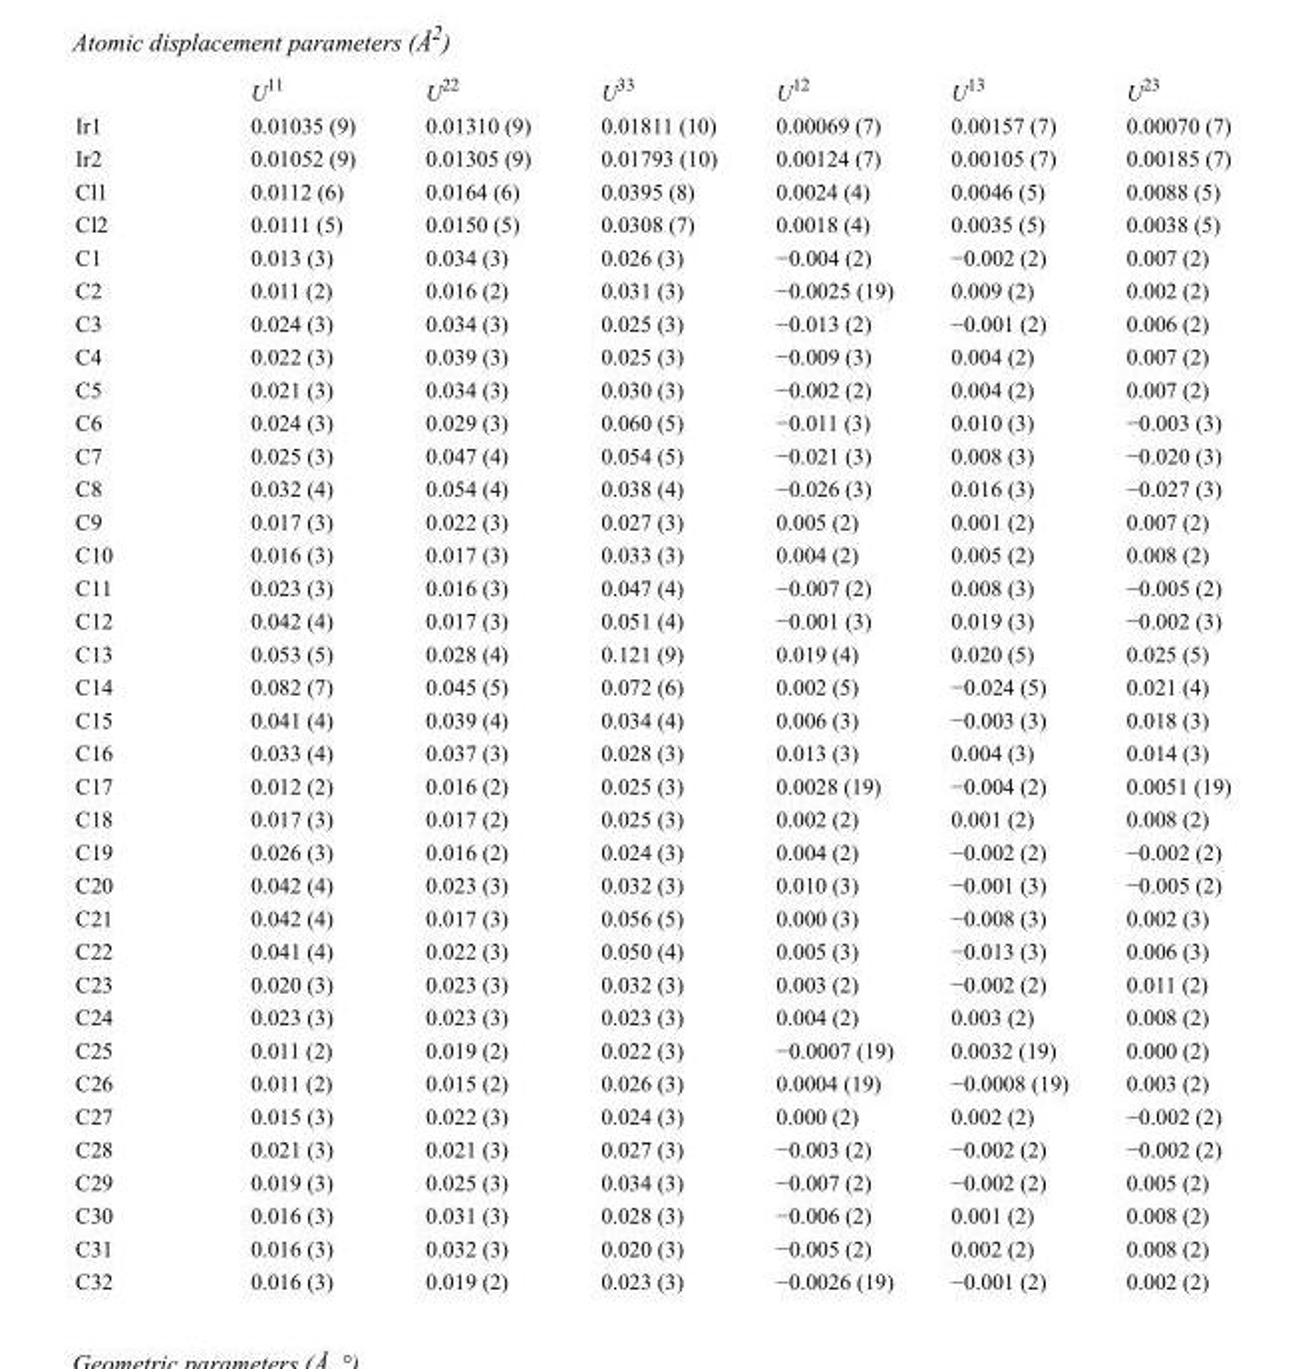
<table><thead><tr><td></td><td>U<sup>11</sup></td><td>U<sup>22</sup></td><td>U<sup>33</sup></td><td>U<sup>12</sup></td><td>U<sup>13</sup></td><td>U<sup>23</sup></td></tr></thead><tbody><tr><td>Ir1</td><td>0.01035 (9)</td><td>0.01310 (9)</td><td>0.01811 (10)</td><td>0.00069 (7)</td><td>0.00157 (7)</td><td>0.00070 (7)</td></tr><tr><td>Ir2</td><td>0.01052 (9)</td><td>0.01305 (9)</td><td>0.01793 (10)</td><td>0.00124 (7)</td><td>0.00105 (7)</td><td>0.00185 (7)</td></tr><tr><td>Cl1</td><td>0.0112 (6)</td><td>0.0164 (6)</td><td>0.0395 (8)</td><td>0.0024 (4)</td><td>0.0046 (5)</td><td>0.0088 (5)</td></tr><tr><td>Cl2</td><td>0.0111 (5)</td><td>0.0150 (5)</td><td>0.0308 (7)</td><td>0.0018 (4)</td><td>0.0035 (5)</td><td>0.0038 (5)</td></tr><tr><td>C1</td><td>0.013 (3)</td><td>0.034 (3)</td><td>0.026 (3)</td><td>−0.004 (2)</td><td>−0.002 (2)</td><td>0.007 (2)</td></tr><tr><td>C2</td><td>0.011 (2)</td><td>0.016 (2)</td><td>0.031 (3)</td><td>−0.0025 (19)</td><td>0.009 (2)</td><td>0.002 (2)</td></tr><tr><td>C3</td><td>0.024 (3)</td><td>0.034 (3)</td><td>0.025 (3)</td><td>−0.013 (2)</td><td>−0.001 (2)</td><td>0.006 (2)</td></tr><tr><td>C4</td><td>0.022 (3)</td><td>0.039 (3)</td><td>0.025 (3)</td><td>−0.009 (3)</td><td>0.004 (2)</td><td>0.007 (2)</td></tr><tr><td>C5</td><td>0.021 (3)</td><td>0.034 (3)</td><td>0.030 (3)</td><td>−0.002 (2)</td><td>0.004 (2)</td><td>0.007 (2)</td></tr><tr><td>C6</td><td>0.024 (3)</td><td>0.029 (3)</td><td>0.060 (5)</td><td>−0.011 (3)</td><td>0.010 (3)</td><td>−0.003 (3)</td></tr><tr><td>C7</td><td>0.025 (3)</td><td>0.047 (4)</td><td>0.054 (5)</td><td>−0.021 (3)</td><td>0.008 (3)</td><td>−0.020 (3)</td></tr><tr><td>C8</td><td>0.032 (4)</td><td>0.054 (4)</td><td>0.038 (4)</td><td>−0.026 (3)</td><td>0.016 (3)</td><td>−0.027 (3)</td></tr><tr><td>C9</td><td>0.017 (3)</td><td>0.022 (3)</td><td>0.027 (3)</td><td>0.005 (2)</td><td>0.001 (2)</td><td>0.007 (2)</td></tr><tr><td>C10</td><td>0.016 (3)</td><td>0.017 (3)</td><td>0.033 (3)</td><td>0.004 (2)</td><td>0.005 (2)</td><td>0.008 (2)</td></tr><tr><td>C11</td><td>0.023 (3)</td><td>0.016 (3)</td><td>0.047 (4)</td><td>−0.007 (2)</td><td>0.008 (3)</td><td>−0.005 (2)</td></tr><tr><td>C12</td><td>0.042 (4)</td><td>0.017 (3)</td><td>0.051 (4)</td><td>−0.001 (3)</td><td>0.019 (3)</td><td>−0.002 (3)</td></tr><tr><td>C13</td><td>0.053 (5)</td><td>0.028 (4)</td><td>0.121 (9)</td><td>0.019 (4)</td><td>0.020 (5)</td><td>0.025 (5)</td></tr><tr><td>C14</td><td>0.082 (7)</td><td>0.045 (5)</td><td>0.072 (6)</td><td>0.002 (5)</td><td>−0.024 (5)</td><td>0.021 (4)</td></tr><tr><td>C15</td><td>0.041 (4)</td><td>0.039 (4)</td><td>0.034 (4)</td><td>0.006 (3)</td><td>−0.003 (3)</td><td>0.018 (3)</td></tr><tr><td>C16</td><td>0.033 (4)</td><td>0.037 (3)</td><td>0.028 (3)</td><td>0.013 (3)</td><td>0.004 (3)</td><td>0.014 (3)</td></tr><tr><td>C17</td><td>0.012 (2)</td><td>0.016 (2)</td><td>0.025 (3)</td><td>0.0028 (19)</td><td>−0.004 (2)</td><td>0.0051 (19)</td></tr><tr><td>C18</td><td>0.017 (3)</td><td>0.017 (2)</td><td>0.025 (3)</td><td>0.002 (2)</td><td>0.001 (2)</td><td>0.008 (2)</td></tr><tr><td>C19</td><td>0.026 (3)</td><td>0.016 (2)</td><td>0.024 (3)</td><td>0.004 (2)</td><td>−0.002 (2)</td><td>−0.002 (2)</td></tr><tr><td>C20</td><td>0.042 (4)</td><td>0.023 (3)</td><td>0.032 (3)</td><td>0.010 (3)</td><td>−0.001 (3)</td><td>−0.005 (2)</td></tr><tr><td>C21</td><td>0.042 (4)</td><td>0.017 (3)</td><td>0.056 (5)</td><td>0.000 (3)</td><td>−0.008 (3)</td><td>0.002 (3)</td></tr><tr><td>C22</td><td>0.041 (4)</td><td>0.022 (3)</td><td>0.050 (4)</td><td>0.005 (3)</td><td>−0.013 (3)</td><td>0.006 (3)</td></tr><tr><td>C23</td><td>0.020 (3)</td><td>0.023 (3)</td><td>0.032 (3)</td><td>0.003 (2)</td><td>−0.002 (2)</td><td>0.011 (2)</td></tr><tr><td>C24</td><td>0.023 (3)</td><td>0.023 (3)</td><td>0.023 (3)</td><td>0.004 (2)</td><td>0.003 (2)</td><td>0.008 (2)</td></tr><tr><td>C25</td><td>0.011 (2)</td><td>0.019 (2)</td><td>0.022 (3)</td><td>−0.0007 (19)</td><td>0.0032 (19)</td><td>0.000 (2)</td></tr><tr><td>C26</td><td>0.011 (2)</td><td>0.015 (2)</td><td>0.026 (3)</td><td>0.0004 (19)</td><td>−0.0008 (19)</td><td>0.003 (2)</td></tr><tr><td>C27</td><td>0.015 (3)</td><td>0.022 (3)</td><td>0.024 (3)</td><td>0.000 (2)</td><td>0.002 (2)</td><td>−0.002 (2)</td></tr><tr><td>C28</td><td>0.021 (3)</td><td>0.021 (3)</td><td>0.027 (3)</td><td>−0.003 (2)</td><td>−0.002 (2)</td><td>−0.002 (2)</td></tr><tr><td>C29</td><td>0.019 (3)</td><td>0.025 (3)</td><td>0.034 (3)</td><td>−0.007 (2)</td><td>−0.002 (2)</td><td>0.005 (2)</td></tr><tr><td>C30</td><td>0.016 (3)</td><td>0.031 (3)</td><td>0.028 (3)</td><td>−0.006 (2)</td><td>0.001 (2)</td><td>0.008 (2)</td></tr><tr><td>C31</td><td>0.016 (3)</td><td>0.032 (3)</td><td>0.020 (3)</td><td>−0.005 (2)</td><td>0.002 (2)</td><td>0.008 (2)</td></tr><tr><td>C32</td><td>0.016 (3)</td><td>0.019 (2)</td><td>0.023 (3)</td><td>−0.0026 (19)</td><td>−0.001 (2)</td><td>0.002 (2)</td></tr></tbody></table>